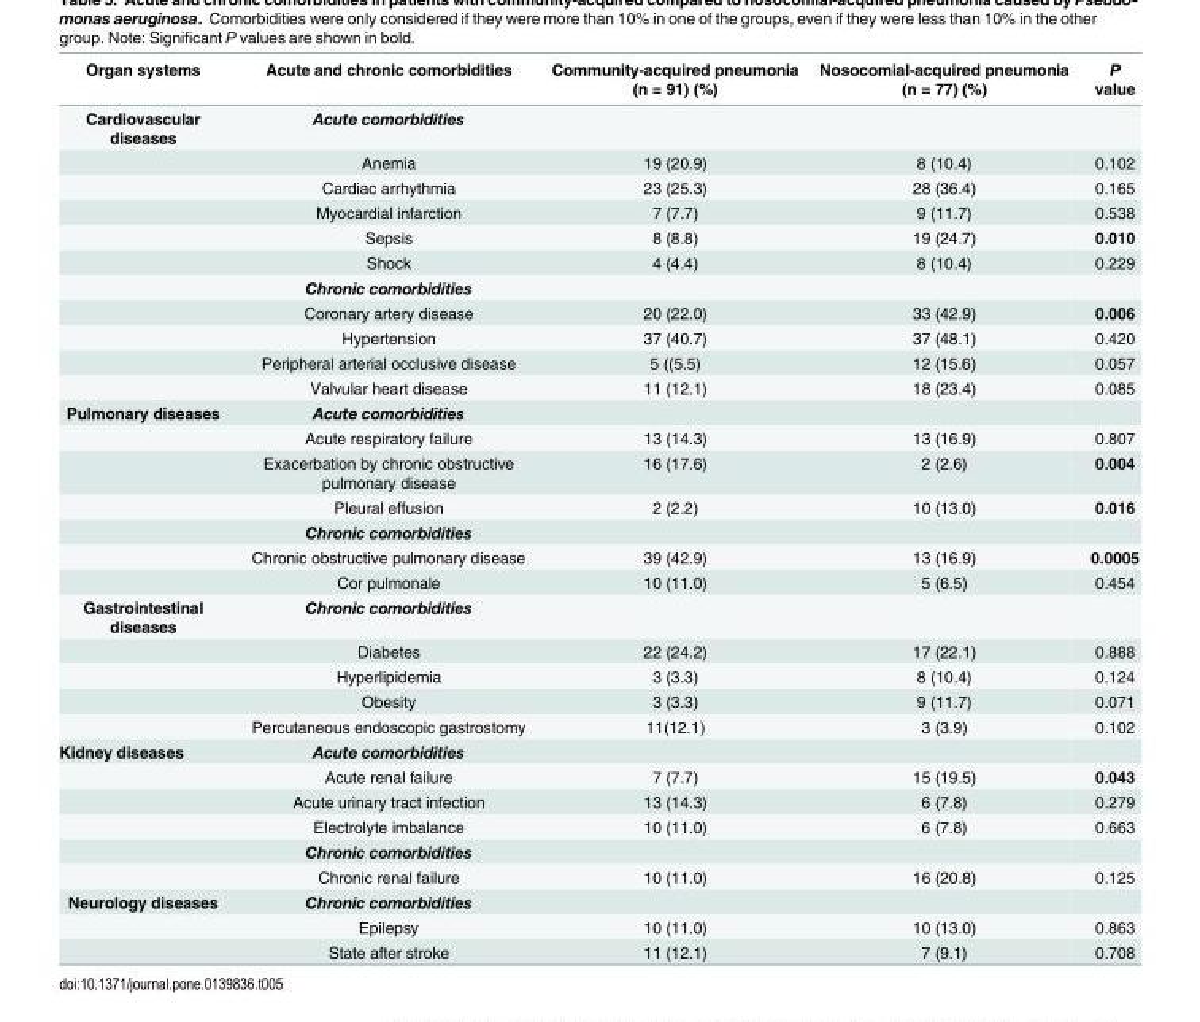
<table><thead><tr><td>Organ systems</td><td>Acute and chronic comorbidities</td><td>Community-acquired pneumonia (n = 91) (%)</td><td>Nosocomial-acquired pneumonia (n = 77) (%)</td><td>P value</td></tr></thead><tbody><tr><td rowspan="11">Cardiovascular diseases</td><td>Acute comorbidities</td><td></td><td></td><td></td></tr><tr><td>Anemia</td><td>19 (20.9)</td><td>8 (10.4)</td><td>0.102</td></tr><tr><td>Cardiac arrhythmia</td><td>23 (25.3)</td><td>28 (36.4)</td><td>0.165</td></tr><tr><td>Myocardial infarction</td><td>7 (7.7)</td><td>9 (11.7)</td><td>0.538</td></tr><tr><td>Sepsis</td><td>8 (8.8)</td><td>19 (24.7)</td><td>0.010</td></tr><tr><td>Shock</td><td>4 (4.4)</td><td>8 (10.4)</td><td>0.229</td></tr><tr><td>Chronic comorbidities</td><td></td><td></td><td></td></tr><tr><td>Coronary artery disease</td><td>20 (22.0)</td><td>33 (42.9)</td><td>0.006</td></tr><tr><td>Hypertension</td><td>37 (40.7)</td><td>37 (48.1)</td><td>0.420</td></tr><tr><td>Peripheral arterial occlusive disease</td><td>5 ((5.5)</td><td>12 (15.6)</td><td>0.057</td></tr><tr><td>Valvular heart disease</td><td>11 (12.1)</td><td>18 (23.4)</td><td>0.085</td></tr><tr><td rowspan="7">Pulmonary diseases</td><td>Acute comorbidities</td><td></td><td></td><td></td></tr><tr><td>Acute respiratory failure</td><td>13 (14.3)</td><td>13 (16.9)</td><td>0.807</td></tr><tr><td>Exacerbation by chronic obstructive pulmonary disease</td><td>16 (17.6)</td><td>2 (2.6)</td><td>0.004</td></tr><tr><td>Pleural effusion</td><td>2 (2.2)</td><td>10 (13.0)</td><td>0.016</td></tr><tr><td>Chronic comorbidities</td><td></td><td></td><td></td></tr><tr><td>Chronic obstructive pulmonary disease</td><td>39 (42.9)</td><td>13 (16.9)</td><td>0.0005</td></tr><tr><td>Cor pulmonale</td><td>10 (11.0)</td><td>5 (6.5)</td><td>0.454</td></tr><tr><td rowspan="5">Gastrointestinal diseases</td><td>Chronic comorbidities</td><td></td><td></td><td></td></tr><tr><td>Diabetes</td><td>22 (24.2)</td><td>17 (22.1)</td><td>0.888</td></tr><tr><td>Hyperlipidemia</td><td>3 (3.3)</td><td>8 (10.4)</td><td>0.124</td></tr><tr><td>Obesity</td><td>3 (3.3)</td><td>9 (11.7)</td><td>0.071</td></tr><tr><td>Percutaneous endoscopic gastrostomy</td><td>11(12.1)</td><td>3 (3.9)</td><td>0.102</td></tr><tr><td rowspan="6">Kidney diseases</td><td>Acute comorbidities</td><td></td><td></td><td></td></tr><tr><td>Acute renal failure</td><td>7 (7.7)</td><td>15 (19.5)</td><td>0.043</td></tr><tr><td>Acute urinary tract infection</td><td>13 (14.3)</td><td>6 (7.8)</td><td>0.279</td></tr><tr><td>Electrolyte imbalance</td><td>10 (11.0)</td><td>6 (7.8)</td><td>0.663</td></tr><tr><td>Chronic comorbidities</td><td></td><td></td><td></td></tr><tr><td>Chronic renal failure</td><td>10 (11.0)</td><td>16 (20.8)</td><td>0.125</td></tr><tr><td rowspan="3">Neurology diseases</td><td>Chronic comorbidities</td><td></td><td></td><td></td></tr><tr><td>Epilepsy</td><td>10 (11.0)</td><td>10 (13.0)</td><td>0.863</td></tr><tr><td>State after stroke</td><td>11 (12.1)</td><td>7 (9.1)</td><td>0.708</td></tr></tbody></table>